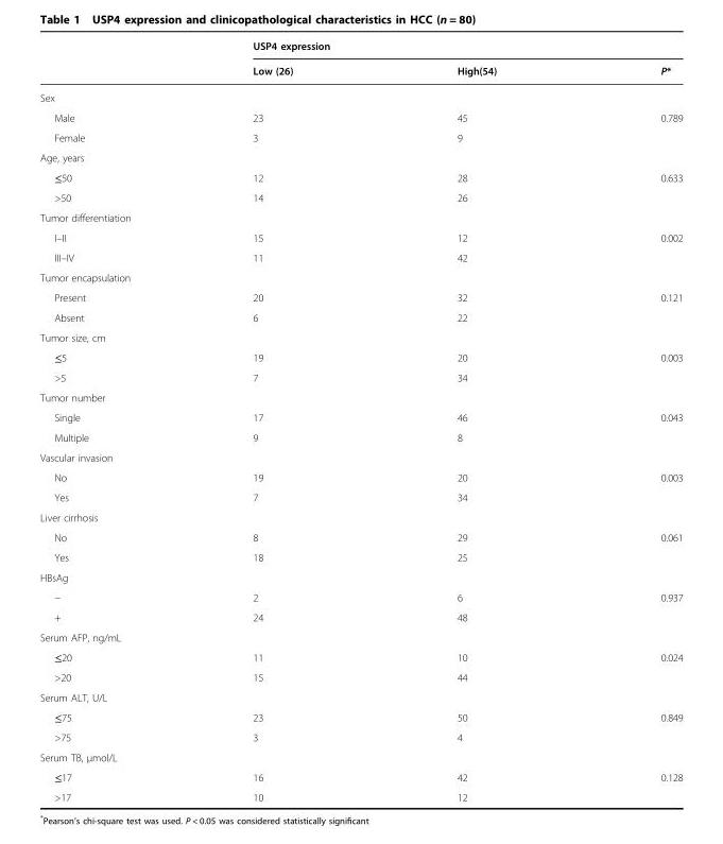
<table><thead><tr><td rowspan="2"></td><td colspan="3">USP4 expression</td></tr><tr><td>Low (26)</td><td>High(54)</td><td>P*</td></tr></thead><tbody><tr><td colspan="4">Sex</td></tr><tr><td>Male</td><td>23</td><td>45</td><td>0.789</td></tr><tr><td>Female</td><td>3</td><td>9</td><td></td></tr><tr><td colspan="4">Age, years</td></tr><tr><td>≤50</td><td>12</td><td>28</td><td>0.633</td></tr><tr><td>&gt;50</td><td>14</td><td>26</td><td></td></tr><tr><td colspan="4">Tumor differentiation</td></tr><tr><td>I–II</td><td>15</td><td>12</td><td>0.002</td></tr><tr><td>III–IV</td><td>11</td><td>42</td><td></td></tr><tr><td colspan="4">Tumor encapsulation</td></tr><tr><td>Present</td><td>20</td><td>32</td><td>0.121</td></tr><tr><td>Absent</td><td>6</td><td>22</td><td></td></tr><tr><td colspan="4">Tumor size, cm</td></tr><tr><td>≤5</td><td>19</td><td>20</td><td>0.003</td></tr><tr><td>&gt;5</td><td>7</td><td>34</td><td></td></tr><tr><td colspan="4">Tumor number</td></tr><tr><td>Single</td><td>17</td><td>46</td><td>0.043</td></tr><tr><td>Multiple</td><td>9</td><td>8</td><td></td></tr><tr><td colspan="4">Vascular invasion</td></tr><tr><td>No</td><td>19</td><td>20</td><td>0.003</td></tr><tr><td>Yes</td><td>7</td><td>34</td><td></td></tr><tr><td colspan="4">Liver cirrhosis</td></tr><tr><td>No</td><td>8</td><td>29</td><td>0.061</td></tr><tr><td>Yes</td><td>18</td><td>25</td><td></td></tr><tr><td colspan="4">HBsAg</td></tr><tr><td>−</td><td>2</td><td>6</td><td>0.937</td></tr><tr><td>+</td><td>24</td><td>48</td><td></td></tr><tr><td colspan="4">Serum AFP, ng/mL</td></tr><tr><td>≤20</td><td>11</td><td>10</td><td>0.024</td></tr><tr><td>&gt;20</td><td>15</td><td>44</td><td></td></tr><tr><td colspan="4">Serum ALT, U/L</td></tr><tr><td>≤75</td><td>23</td><td>50</td><td>0.849</td></tr><tr><td>&gt;75</td><td>3</td><td>4</td><td></td></tr><tr><td colspan="4">Serum TB, μmol/L</td></tr><tr><td>≤17</td><td>16</td><td>42</td><td>0.128</td></tr><tr><td>&gt;17</td><td>10</td><td>12</td><td></td></tr></tbody></table>